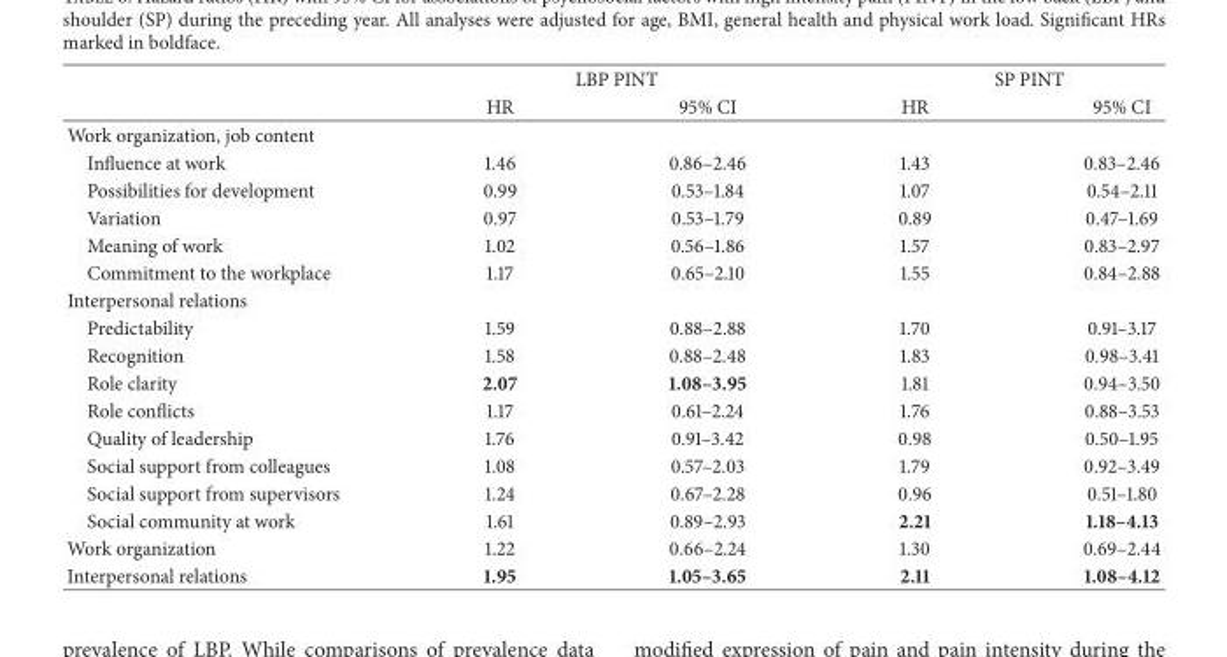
<table><thead><tr><td rowspan="2"></td><td colspan="2">LBP PINT</td><td colspan="2">SP PINT</td></tr><tr><td>HR</td><td>95% CI</td><td>HR</td><td>95% CI</td></tr></thead><tbody><tr><td colspan="5">Work organization, job content</td></tr><tr><td>Influence at work</td><td>1.46</td><td>0.86–2.46</td><td>1.43</td><td>0.83–2.46</td></tr><tr><td>Possibilities for development</td><td>0.99</td><td>0.53–1.84</td><td>1.07</td><td>0.54–2.11</td></tr><tr><td>Variation</td><td>0.97</td><td>0.53–1.79</td><td>0.89</td><td>0.47–1.69</td></tr><tr><td>Meaning of work</td><td>1.02</td><td>0.56–1.86</td><td>1.57</td><td>0.83–2.97</td></tr><tr><td>Commitment to the workplace</td><td>1.17</td><td>0.65–2.10</td><td>1.55</td><td>0.84–2.88</td></tr><tr><td colspan="5">Interpersonal relations</td></tr><tr><td>Predictability</td><td>1.59</td><td>0.88–2.88</td><td>1.70</td><td>0.91–3.17</td></tr><tr><td>Recognition</td><td>1.58</td><td>0.88–2.48</td><td>1.83</td><td>0.98–3.41</td></tr><tr><td>Role clarity</td><td>2.07</td><td>1.08–3.95</td><td>1.81</td><td>0.94–3.50</td></tr><tr><td>Role conflicts</td><td>1.17</td><td>0.61–2.24</td><td>1.76</td><td>0.88–3.53</td></tr><tr><td>Quality of leadership</td><td>1.76</td><td>0.91–3.42</td><td>0.98</td><td>0.50–1.95</td></tr><tr><td>Social support from colleagues</td><td>1.08</td><td>0.57–2.03</td><td>1.79</td><td>0.92–3.49</td></tr><tr><td>Social support from supervisors</td><td>1.24</td><td>0.67–2.28</td><td>0.96</td><td>0.51–1.80</td></tr><tr><td>Social community at work</td><td>1.61</td><td>0.89–2.93</td><td>2.21</td><td>1.18–4.13</td></tr><tr><td>Work organization</td><td>1.22</td><td>0.66–2.24</td><td>1.30</td><td>0.69–2.44</td></tr><tr><td>Interpersonal relations</td><td>1.95</td><td>1.05–3.65</td><td>2.11</td><td>1.08–4.12</td></tr></tbody></table>